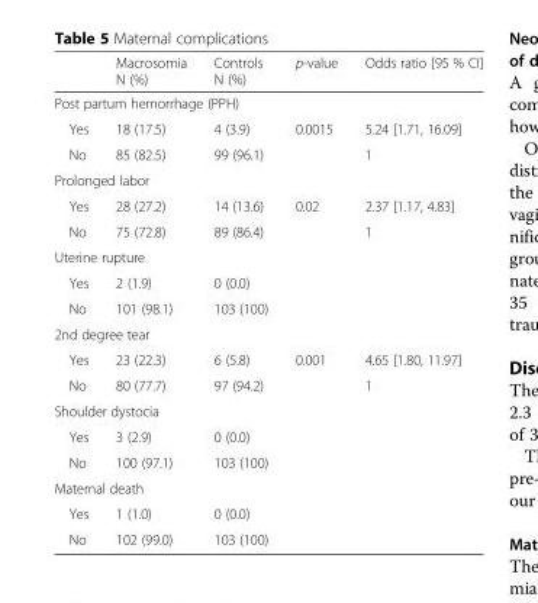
<table><thead><tr><td></td><td>Macrosomia N (%)</td><td>Controls N (%)</td><td>p-value</td><td>Odds ratio [95 % CI]</td></tr></thead><tbody><tr><td colspan="5">Post partum hemorrhage (PPH)</td></tr><tr><td>Yes</td><td>18 (17.5)</td><td>4 (3.9)</td><td>0.0015</td><td>5.24 [1.71, 16.09]</td></tr><tr><td>No</td><td>85 (82.5)</td><td>99 (96.1)</td><td></td><td>1</td></tr><tr><td colspan="5">Prolonged labor</td></tr><tr><td>Yes</td><td>28 (27.2)</td><td>14 (13.6)</td><td>0.02</td><td>2.37 [1.17, 4.83]</td></tr><tr><td>No</td><td>75 (72.8)</td><td>89 (86.4)</td><td></td><td>1</td></tr><tr><td colspan="5">Uterine rupture</td></tr><tr><td>Yes</td><td>2 (1.9)</td><td>0 (0.0)</td><td></td><td></td></tr><tr><td>No</td><td>101 (98.1)</td><td>103 (100)</td><td></td><td></td></tr><tr><td colspan="5">2nd degree tear</td></tr><tr><td>Yes</td><td>23 (22.3)</td><td>6 (5.8)</td><td>0.001</td><td>4.65 [1.80, 11.97]</td></tr><tr><td>No</td><td>80 (77.7)</td><td>97 (94.2)</td><td></td><td>1</td></tr><tr><td colspan="5">Shoulder dystocia</td></tr><tr><td>Yes</td><td>3 (2.9)</td><td>0 (0.0)</td><td></td><td></td></tr><tr><td>No</td><td>100 (97.1)</td><td>103 (100)</td><td></td><td></td></tr><tr><td colspan="5">Maternal death</td></tr><tr><td>Yes</td><td>1 (1.0)</td><td>0 (0.0)</td><td></td><td></td></tr><tr><td>No</td><td>102 (99.0)</td><td>103 (100)</td><td></td><td></td></tr></tbody></table>